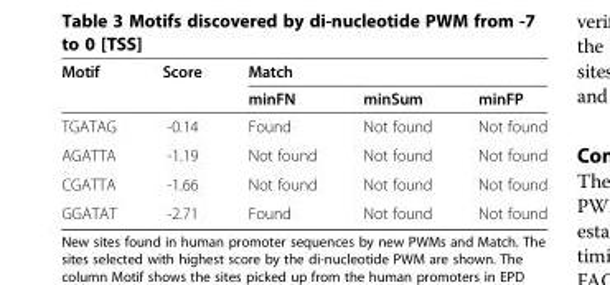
<table><thead><tr><td rowspan="2">Motif</td><td rowspan="2">Score</td><td rowspan="2">Match minFN</td><td rowspan="2">minSum</td><td rowspan="2">minFP</td></tr><tr></tr></thead><tbody><tr><td>TGATAG</td><td>-0.14</td><td>Found</td><td>Not found</td><td>Not found</td></tr><tr><td>AGATTA</td><td>-1.19</td><td>Not found</td><td>Not found</td><td>Not found</td></tr><tr><td>CGATTA</td><td>-1.66</td><td>Not found</td><td>Not found</td><td>Not found</td></tr><tr><td>GGATAT</td><td>-2.71</td><td>Found</td><td>Not found</td><td>Not found</td></tr></tbody></table>